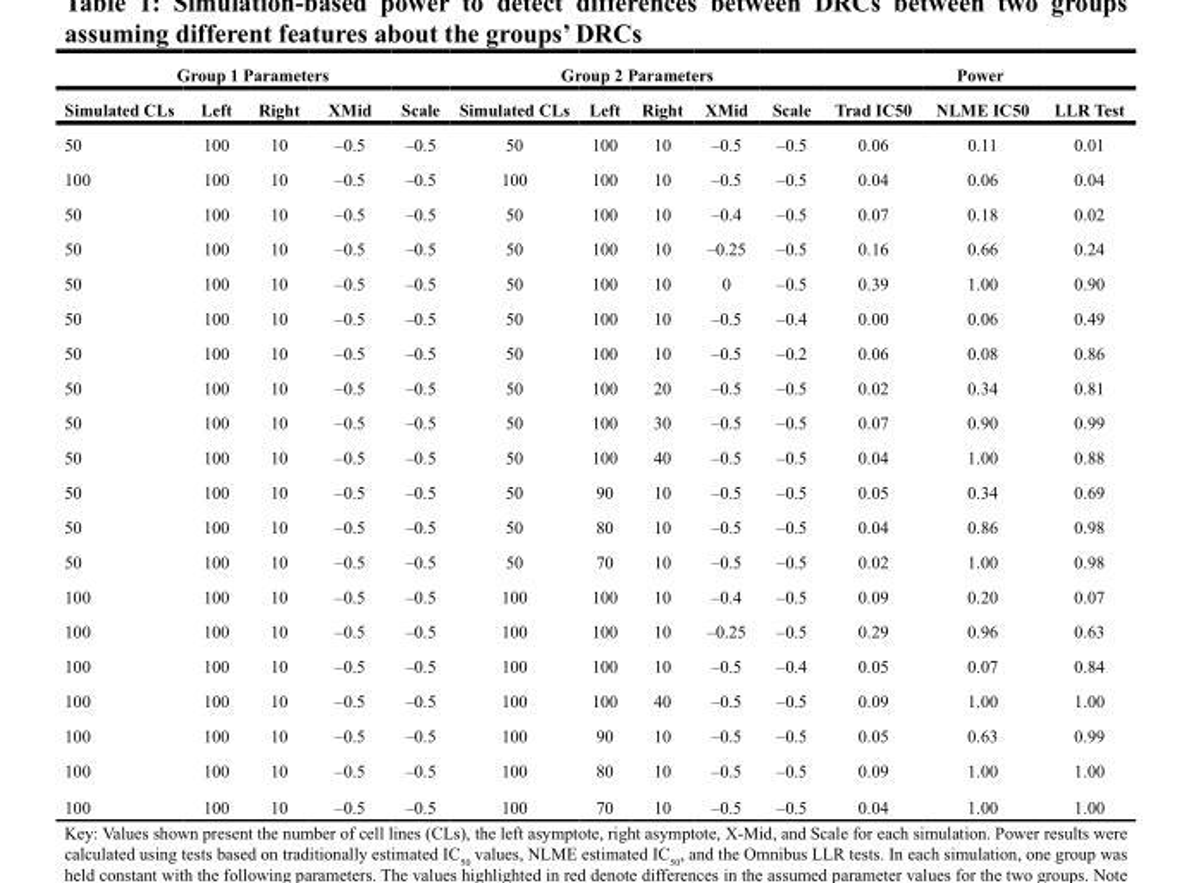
<table><thead><tr><td colspan="5">Group 1 Parameters</td><td colspan="5">Group 2 Parameters</td><td colspan="3">Power</td></tr><tr><td>Simulated CLs</td><td>Left</td><td>Right</td><td>XMid</td><td>Scale</td><td>Simulated CLs</td><td>Left</td><td>Right</td><td>XMid</td><td>Scale</td><td>Trad IC50</td><td>NLME IC50</td><td>LLR Test</td></tr></thead><tbody><tr><td>50</td><td>100</td><td>10</td><td>–0.5</td><td>–0.5</td><td>50</td><td>100</td><td>10</td><td>–0.5</td><td>–0.5</td><td>0.06</td><td>0.11</td><td>0.01</td></tr><tr><td>100</td><td>100</td><td>10</td><td>–0.5</td><td>–0.5</td><td>100</td><td>100</td><td>10</td><td>–0.5</td><td>–0.5</td><td>0.04</td><td>0.06</td><td>0.04</td></tr><tr><td>50</td><td>100</td><td>10</td><td>–0.5</td><td>–0.5</td><td>50</td><td>100</td><td>10</td><td>–0.4</td><td>–0.5</td><td>0.07</td><td>0.18</td><td>0.02</td></tr><tr><td>50</td><td>100</td><td>10</td><td>–0.5</td><td>–0.5</td><td>50</td><td>100</td><td>10</td><td>–0.25</td><td>–0.5</td><td>0.16</td><td>0.66</td><td>0.24</td></tr><tr><td>50</td><td>100</td><td>10</td><td>–0.5</td><td>–0.5</td><td>50</td><td>100</td><td>10</td><td>0</td><td>–0.5</td><td>0.39</td><td>1.00</td><td>0.90</td></tr><tr><td>50</td><td>100</td><td>10</td><td>–0.5</td><td>–0.5</td><td>50</td><td>100</td><td>10</td><td>–0.5</td><td>–0.4</td><td>0.00</td><td>0.06</td><td>0.49</td></tr><tr><td>50</td><td>100</td><td>10</td><td>–0.5</td><td>–0.5</td><td>50</td><td>100</td><td>10</td><td>–0.5</td><td>–0.2</td><td>0.06</td><td>0.08</td><td>0.86</td></tr><tr><td>50</td><td>100</td><td>10</td><td>–0.5</td><td>–0.5</td><td>50</td><td>100</td><td>20</td><td>–0.5</td><td>–0.5</td><td>0.02</td><td>0.34</td><td>0.81</td></tr><tr><td>50</td><td>100</td><td>10</td><td>–0.5</td><td>–0.5</td><td>50</td><td>100</td><td>30</td><td>–0.5</td><td>–0.5</td><td>0.07</td><td>0.90</td><td>0.99</td></tr><tr><td>50</td><td>100</td><td>10</td><td>–0.5</td><td>–0.5</td><td>50</td><td>100</td><td>40</td><td>–0.5</td><td>–0.5</td><td>0.04</td><td>1.00</td><td>0.88</td></tr><tr><td>50</td><td>100</td><td>10</td><td>–0.5</td><td>–0.5</td><td>50</td><td>90</td><td>10</td><td>–0.5</td><td>–0.5</td><td>0.05</td><td>0.34</td><td>0.69</td></tr><tr><td>50</td><td>100</td><td>10</td><td>–0.5</td><td>–0.5</td><td>50</td><td>80</td><td>10</td><td>–0.5</td><td>–0.5</td><td>0.04</td><td>0.86</td><td>0.98</td></tr><tr><td>50</td><td>100</td><td>10</td><td>–0.5</td><td>–0.5</td><td>50</td><td>70</td><td>10</td><td>–0.5</td><td>–0.5</td><td>0.02</td><td>1.00</td><td>0.98</td></tr><tr><td>100</td><td>100</td><td>10</td><td>–0.5</td><td>–0.5</td><td>100</td><td>100</td><td>10</td><td>–0.4</td><td>–0.5</td><td>0.09</td><td>0.20</td><td>0.07</td></tr><tr><td>100</td><td>100</td><td>10</td><td>–0.5</td><td>–0.5</td><td>100</td><td>100</td><td>10</td><td>–0.25</td><td>–0.5</td><td>0.29</td><td>0.96</td><td>0.63</td></tr><tr><td>100</td><td>100</td><td>10</td><td>–0.5</td><td>–0.5</td><td>100</td><td>100</td><td>10</td><td>–0.5</td><td>–0.4</td><td>0.05</td><td>0.07</td><td>0.84</td></tr><tr><td>100</td><td>100</td><td>10</td><td>–0.5</td><td>–0.5</td><td>100</td><td>100</td><td>40</td><td>–0.5</td><td>–0.5</td><td>0.09</td><td>1.00</td><td>1.00</td></tr><tr><td>100</td><td>100</td><td>10</td><td>–0.5</td><td>–0.5</td><td>100</td><td>90</td><td>10</td><td>–0.5</td><td>–0.5</td><td>0.05</td><td>0.63</td><td>0.99</td></tr><tr><td>100</td><td>100</td><td>10</td><td>–0.5</td><td>–0.5</td><td>100</td><td>80</td><td>10</td><td>–0.5</td><td>–0.5</td><td>0.09</td><td>1.00</td><td>1.00</td></tr><tr><td>100</td><td>100</td><td>10</td><td>–0.5</td><td>–0.5</td><td>100</td><td>70</td><td>10</td><td>–0.5</td><td>–0.5</td><td>0.04</td><td>1.00</td><td>1.00</td></tr></tbody></table>